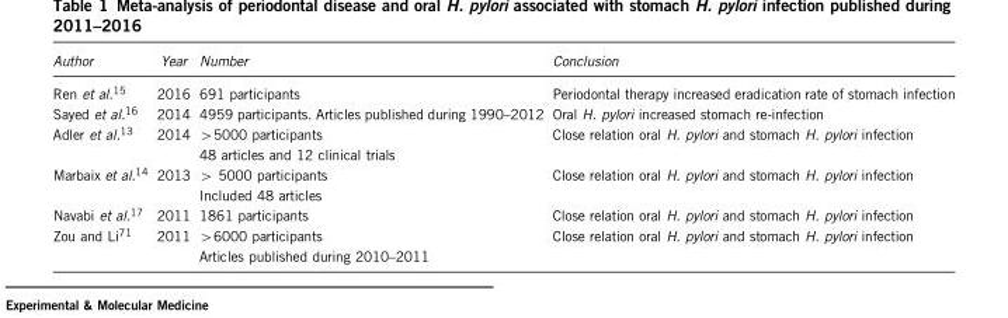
<table><thead><tr><td>Author</td><td>Year</td><td>Number</td><td>Conclusion</td></tr></thead><tbody><tr><td>Ren et al.<sup>15</sup></td><td>2016</td><td>691 participants</td><td>Periodontal therapy increased eradication rate of stomach infection</td></tr><tr><td>Sayed et al.<sup>16</sup></td><td>2014</td><td>4959 participants. Articles published during 1990–2012</td><td>Oral H. pylori increased stomach re-infection</td></tr><tr><td>Adler et al.<sup>13</sup></td><td>2014</td><td>&gt;5000 participants 48 articles and 12 clinical trials</td><td>Close relation oral H. pylori and stomach H. pylori infection</td></tr><tr><td>Marbaix et al.<sup>14</sup></td><td>2013</td><td>&gt; 5000 participants Included 48 articles</td><td>Close relation oral H. pylori and stomach H. pylori infection</td></tr><tr><td>Navabi et al.<sup>17</sup></td><td>2011</td><td>1861 participants</td><td>Close relation oral H. pylori and stomach H. pylori infection</td></tr><tr><td>Zou and Li<sup>71</sup></td><td>2011</td><td>&gt;6000 participants Articles published during 2010–2011</td><td>Close relation oral H. pylori and stomach H. pylori infection</td></tr></tbody></table>